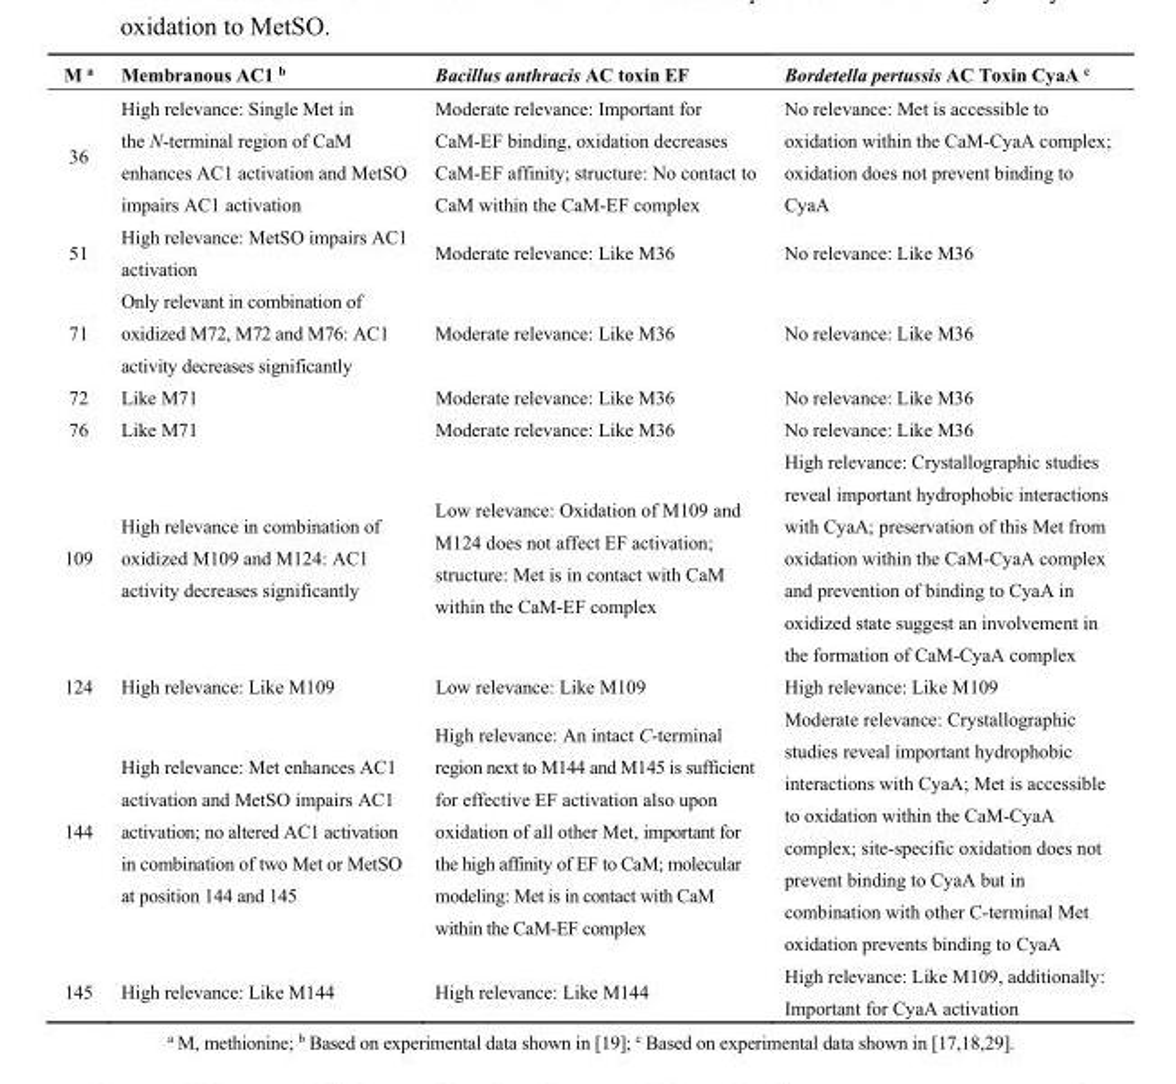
<table><thead><tr><td>M <sup>a</sup></td><td>Membranous AC1 <sup>b</sup></td><td>Bacillus anthracis AC toxin EF</td><td>Bordetella pertussis AC Toxin CyaA <sup>c</sup></td></tr></thead><tbody><tr><td>36</td><td>High relevance: Single Met in the N-terminal region of CaM enhances AC1 activation and MetSO impairs AC1 activation</td><td>Moderate relevance: Important for CaM-EF binding, oxidation decreases CaM-EF affinity; structure: No contact to CaM within the CaM-EF complex</td><td>No relevance: Met is accessible to oxidation within the CaM-CyaA complex; oxidation does not prevent binding to CyaA</td></tr><tr><td>51</td><td>High relevance: MetSO impairs AC1 activation</td><td>Moderate relevance: Like M36</td><td>No relevance: Like M36</td></tr><tr><td>71</td><td>Only relevant in combination of oxidized M72, M72 and M76: AC1 activity decreases significantly</td><td>Moderate relevance: Like M36</td><td>No relevance: Like M36</td></tr><tr><td>72</td><td>Like M71</td><td>Moderate relevance: Like M36</td><td>No relevance: Like M36</td></tr><tr><td>76</td><td>Like M71</td><td>Moderate relevance: Like M36</td><td>No relevance: Like M36</td></tr><tr><td>109</td><td>High relevance in combination of oxidized M109 and M124: AC1 activity decreases significantly</td><td>Low relevance: Oxidation of M109 and M124 does not affect EF activation; structure: Met is in contact with CaM within the CaM-EF complex</td><td>High relevance: Crystallographic studies reveal important hydrophobic interactions with CyaA; preservation of this Met from oxidation within the CaM-CyaA complex and prevention of binding to CyaA in oxidized state suggest an involvement in the formation of CaM-CyaA complex</td></tr><tr><td>124</td><td>High relevance: Like M109</td><td>Low relevance: Like M109</td><td>High relevance: Like M109</td></tr><tr><td>144</td><td>High relevance: Met enhances AC1 activation and MetSO impairs AC1 activation; no altered AC1 activation in combination of two Met or MetSO at position 144 and 145</td><td>High relevance: An intact C-terminal region next to M144 and M145 is sufficient for effective EF activation also upon oxidation of all other Met, important for the high affinity of EF to CaM; molecular modeling: Met is in contact with CaM within the CaM-EF complex</td><td>Moderate relevance: Crystallographic studies reveal important hydrophobic interactions with CyaA; Met is accessible to oxidation within the CaM-CyaA complex; site-specific oxidation does not prevent binding to CyaA but in combination with other C-terminal Met oxidation prevents binding to CyaA</td></tr><tr><td>145</td><td>High relevance: Like M144</td><td>High relevance: Like M144</td><td>High relevance: Like M109, additionally: Important for CyaA activation</td></tr></tbody></table>